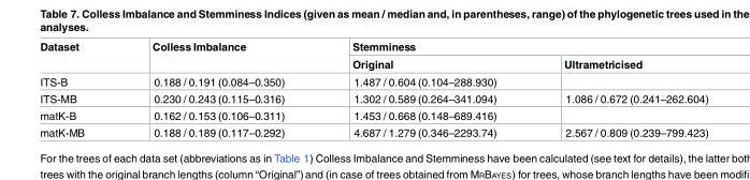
<table><thead><tr><td rowspan="2">Dataset</td><td rowspan="2">Colless Imbalance</td><td colspan="2">Stemminess</td></tr><tr><td>Original</td><td>Ultrametricised</td></tr></thead><tbody><tr><td>ITS-B</td><td>0.188 / 0.191 (0.084–0.350)</td><td>1.487 / 0.604 (0.104–288.930)</td><td></td></tr><tr><td>ITS-MB</td><td>0.230 / 0.243 (0.115–0.316)</td><td>1.302 / 0.589 (0.264–341.094)</td><td>1.086 / 0.672 (0.241–262.604)</td></tr><tr><td>matK-B</td><td>0.162 / 0.153 (0.106–0.311)</td><td>1.453 / 0.668 (0.148–689.416)</td><td></td></tr><tr><td>matK-MB</td><td>0.188 / 0.189 (0.117–0.292)</td><td>4.687 / 1.279 (0.346–2293.74)</td><td>2.567 / 0.809 (0.239–799.423)</td></tr></tbody></table>